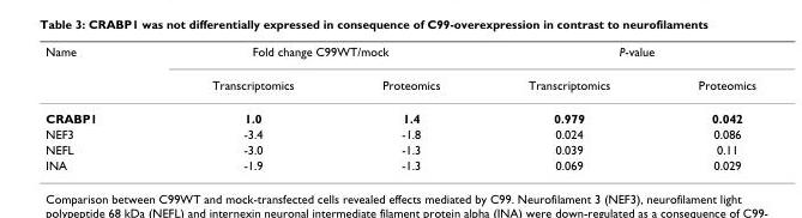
<table><thead><tr><td rowspan="2">Name</td><td colspan="2">Fold change C99WT/mock</td><td colspan="2">P-value</td></tr><tr><td>Transcriptomics</td><td>Proteomics</td><td>Transcriptomics</td><td>Proteomics</td></tr></thead><tbody><tr><td>CRABP1</td><td>1.0</td><td>1.4</td><td>0.979</td><td>0.042</td></tr><tr><td>NEF3</td><td>-3.4</td><td>-1.8</td><td>0.024</td><td>0.086</td></tr><tr><td>NEFL</td><td>-3.0</td><td>-1.3</td><td>0.039</td><td>0.11</td></tr><tr><td>INA</td><td>-1.9</td><td>-1.3</td><td>0.069</td><td>0.029</td></tr></tbody></table>